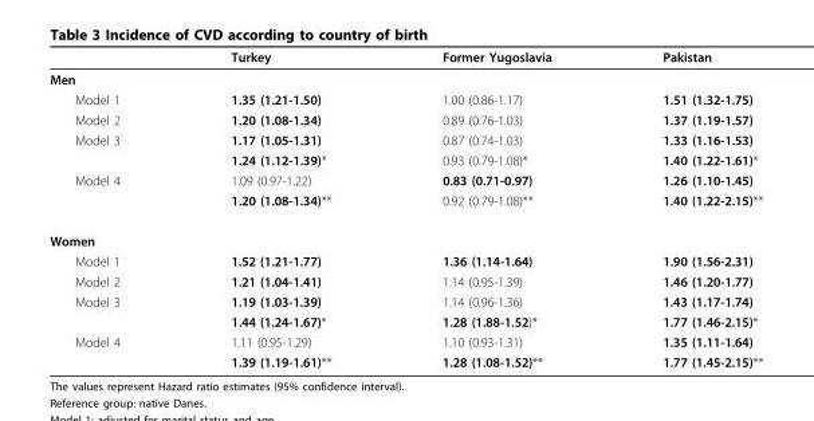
<table><thead><tr><td></td><td>Turkey</td><td>Former Yugoslavia</td><td>Pakistan</td></tr></thead><tbody><tr><td colspan="4">Men</td></tr><tr><td>Model 1</td><td>1.35 (1.21-1.50)</td><td>1.00 (0.86-1.17)</td><td>1.51 (1.32-1.75)</td></tr><tr><td>Model 2</td><td>1.20 (1.08-1.34)</td><td>0.89 (0.76-1.03)</td><td>1.37 (1.19-1.57)</td></tr><tr><td rowspan="2">Model 3</td><td>1.17 (1.05-1.31)</td><td>0.87 (0.74-1.03)</td><td>1.33 (1.16-1.53)</td></tr><tr><td>1.24 (1.12-1.39)*</td><td>0.93 (0.79-1.08)*</td><td>1.40 (1.22-1.61)*</td></tr><tr><td rowspan="2">Model 4</td><td>1.09 (0.97-1.22)</td><td>0.83 (0.71-0.97)</td><td>1.26 (1.10-1.45)</td></tr><tr><td>1.20 (1.08-1.34)**</td><td>0.92 (0.79-1.08)**</td><td>1.40 (1.22-2.15)**</td></tr><tr><td colspan="4">Women</td></tr><tr><td>Model 1</td><td>1.52 (1.21-1.77)</td><td>1.36 (1.14-1.64)</td><td>1.90 (1.56-2.31)</td></tr><tr><td>Model 2</td><td>1.21 (1.04-1.41)</td><td>1.14 (0.95-1.39)</td><td>1.46 (1.20-1.77)</td></tr><tr><td rowspan="2">Model 3</td><td>1.19 (1.03-1.39)</td><td>1.14 (0.96-1.36)</td><td>1.43 (1.17-1.74)</td></tr><tr><td>1.44 (1.24-1.67)*</td><td>1.28 (1.88-1.52)*</td><td>1.77 (1.46-2.15)*</td></tr><tr><td rowspan="2">Model 4</td><td>1.11 (0.95-1.29)</td><td>1.10 (0.93-1.31)</td><td>1.35 (1.11-1.64)</td></tr><tr><td>1.39 (1.19-1.61)**</td><td>1.28 (1.08-1.52)**</td><td>1.77 (1.45-2.15)**</td></tr></tbody></table>